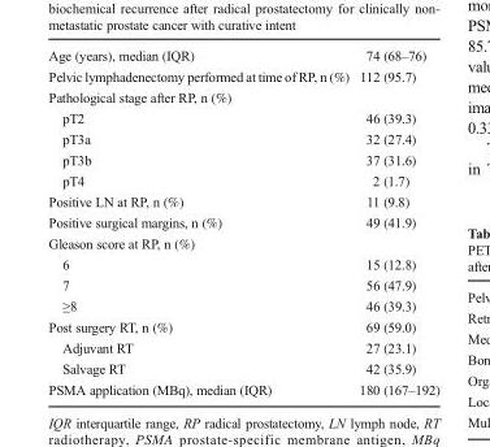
<table><tbody><tr><td>Age (years), median (IQR)</td><td>74 (68–76)</td></tr><tr><td>Pelvic lymphadenectomy performed at time of RP, n (%)</td><td>112 (95.7)</td></tr><tr><td colspan="2">Pathological stage after RP, n (%)</td></tr><tr><td>pT2</td><td>46 (39.3)</td></tr><tr><td>pT3a</td><td>32 (27.4)</td></tr><tr><td>pT3b</td><td>37 (31.6)</td></tr><tr><td>pT4</td><td>2 (1.7)</td></tr><tr><td>Positive LN at RP, n (%)</td><td>11 (9.8)</td></tr><tr><td>Positive surgical margins, n (%)</td><td>49 (41.9)</td></tr><tr><td colspan="2">Gleason score at RP, n (%)</td></tr><tr><td>6</td><td>15 (12.8)</td></tr><tr><td>7</td><td>56 (47.9)</td></tr><tr><td>≥8</td><td>46 (39.3)</td></tr><tr><td>Post surgery RT, n (%)</td><td>69 (59.0)</td></tr><tr><td>Adjuvant RT</td><td>27 (23.1)</td></tr><tr><td>Salvage RT</td><td>42 (35.9)</td></tr><tr><td>PSMA application (MBq), median (IQR)</td><td>180 (167–192)</td></tr></tbody></table>